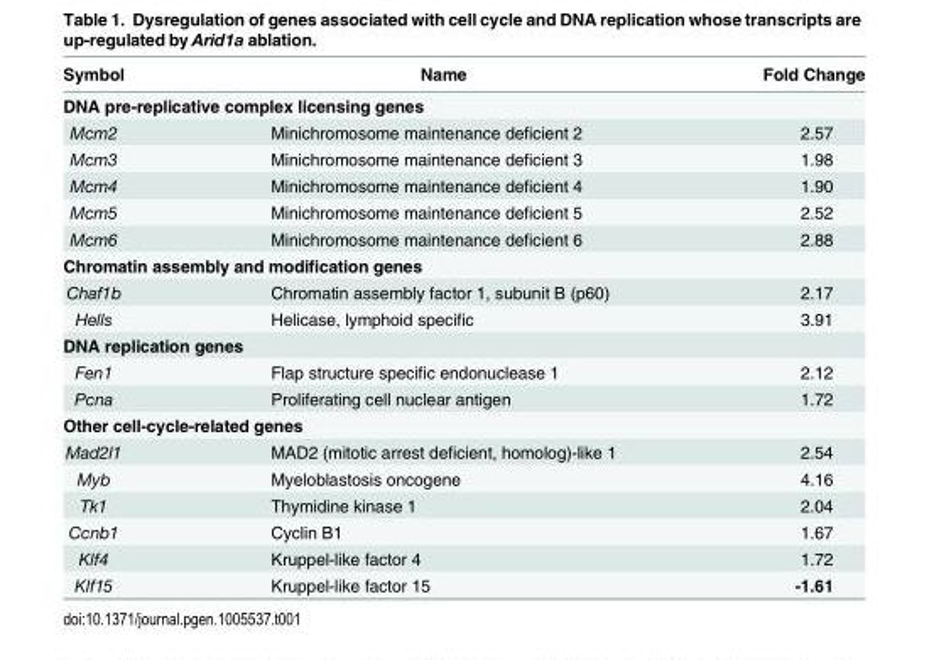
<table><thead><tr><td>Symbol</td><td>Name</td><td>Fold Change</td></tr></thead><tbody><tr><td colspan="3">DNA pre-replicative complex licensing genes</td></tr><tr><td>Mcm2</td><td>Minichromosome maintenance deficient 2</td><td>2.57</td></tr><tr><td>Mcm3</td><td>Minichromosome maintenance deficient 3</td><td>1.98</td></tr><tr><td>Mcm4</td><td>Minichromosome maintenance deficient 4</td><td>1.90</td></tr><tr><td>Mcm5</td><td>Minichromosome maintenance deficient 5</td><td>2.52</td></tr><tr><td>Mcm6</td><td>Minichromosome maintenance deficient 6</td><td>2.88</td></tr><tr><td colspan="3">Chromatin assembly and modification genes</td></tr><tr><td>Chaf1b</td><td>Chromatin assembly factor 1, subunit B (p60)</td><td>2.17</td></tr><tr><td>Hells</td><td>Helicase, lymphoid specific</td><td>3.91</td></tr><tr><td colspan="3">DNA replication genes</td></tr><tr><td>Fen1</td><td>Flap structure specific endonuclease 1</td><td>2.12</td></tr><tr><td>Pcna</td><td>Proliferating cell nuclear antigen</td><td>1.72</td></tr><tr><td colspan="3">Other cell-cycle-related genes</td></tr><tr><td>Mad2l1</td><td>MAD2 (mitotic arrest deficient, homolog)-like 1</td><td>2.54</td></tr><tr><td>Myb</td><td>Myeloblastosis oncogene</td><td>4.16</td></tr><tr><td>Tk1</td><td>Thymidine kinase 1</td><td>2.04</td></tr><tr><td>Ccnb1</td><td>Cyclin B1</td><td>1.67</td></tr><tr><td>Klf4</td><td>Kruppel-like factor 4</td><td>1.72</td></tr><tr><td>Klf15</td><td>Kruppel-like factor 15</td><td>-1.61</td></tr></tbody></table>